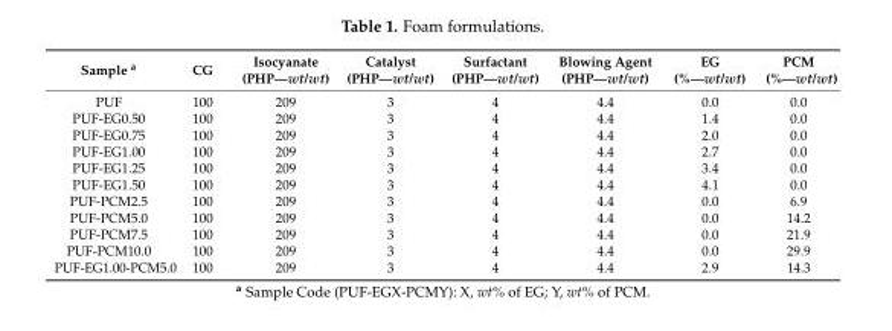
<table><thead><tr><td>Sample a</td><td>CG</td><td>Isocyanate (PHP—wt/wt)</td><td>Catalyst (PHP—wt/wt)</td><td>Surfactant (PHP—wt/wt)</td><td>Blowing Agent (PHP—wt/wt)</td><td>EG (%—wt/wt)</td><td>PCM (%—wt/wt)</td></tr></thead><tbody><tr><td>PUF</td><td>100</td><td>209</td><td>3</td><td>4</td><td>4.4</td><td>0.0</td><td>0.0</td></tr><tr><td>PUF-EG0.50</td><td>100</td><td>209</td><td>3</td><td>4</td><td>4.4</td><td>1.4</td><td>0.0</td></tr><tr><td>PUF-EG0.75</td><td>100</td><td>209</td><td>3</td><td>4</td><td>4.4</td><td>2.0</td><td>0.0</td></tr><tr><td>PUF-EG1.00</td><td>100</td><td>209</td><td>3</td><td>4</td><td>4.4</td><td>2.7</td><td>0.0</td></tr><tr><td>PUF-EG1.25</td><td>100</td><td>209</td><td>3</td><td>4</td><td>4.4</td><td>3.4</td><td>0.0</td></tr><tr><td>PUF-EG1.50</td><td>100</td><td>209</td><td>3</td><td>4</td><td>4.4</td><td>4.1</td><td>0.0</td></tr><tr><td>PUF-PCM2.5</td><td>100</td><td>209</td><td>3</td><td>4</td><td>4.4</td><td>0.0</td><td>6.9</td></tr><tr><td>PUF-PCM5.0</td><td>100</td><td>209</td><td>3</td><td>4</td><td>4.4</td><td>0.0</td><td>14.2</td></tr><tr><td>PUF-PCM7.5</td><td>100</td><td>209</td><td>3</td><td>4</td><td>4.4</td><td>0.0</td><td>21.9</td></tr><tr><td>PUF-PCM10.0</td><td>100</td><td>209</td><td>3</td><td>4</td><td>4.4</td><td>0.0</td><td>29.9</td></tr><tr><td>PUF-EG1.00-PCM5.0</td><td>100</td><td>209</td><td>3</td><td>4</td><td>4.4</td><td>2.9</td><td>14.3</td></tr></tbody></table>